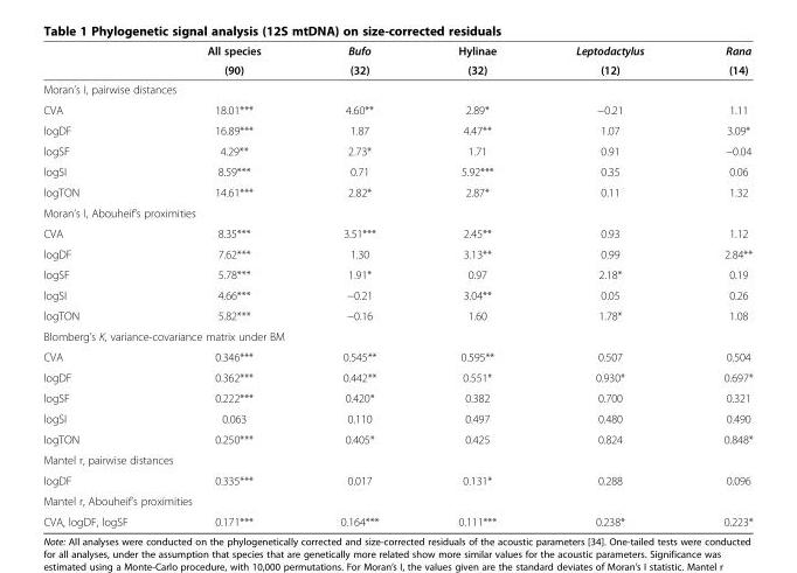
<table><thead><tr><td rowspan="2"></td><td rowspan="2">All species (90)</td><td rowspan="2">Bufo (32)</td><td rowspan="2">Hylinae (32)</td><td rowspan="2">Leptodactylus (12)</td><td rowspan="2">Rana (14)</td></tr><tr></tr></thead><tbody><tr><td colspan="6">Moran’s I, pairwise distances</td></tr><tr><td>CVA</td><td>18.01***</td><td>4.60**</td><td>2.89*</td><td>−0.21</td><td>1.11</td></tr><tr><td>logDF</td><td>16.89***</td><td>1.87</td><td>4.47**</td><td>1.07</td><td>3.09*</td></tr><tr><td>logSF</td><td>4.29**</td><td>2.73*</td><td>1.71</td><td>0.91</td><td>−0.04</td></tr><tr><td>logSI</td><td>8.59***</td><td>0.71</td><td>5.92***</td><td>0.35</td><td>0.06</td></tr><tr><td>logTON</td><td>14.61***</td><td>2.82*</td><td>2.87*</td><td>0.11</td><td>1.32</td></tr><tr><td colspan="6">Moran’s I, Abouheif’s proximities</td></tr><tr><td>CVA</td><td>8.35***</td><td>3.51***</td><td>2.45**</td><td>0.93</td><td>1.12</td></tr><tr><td>logDF</td><td>7.62***</td><td>1.30</td><td>3.13**</td><td>0.99</td><td>2.84**</td></tr><tr><td>logSF</td><td>5.78***</td><td>1.91*</td><td>0.97</td><td>2.18*</td><td>0.19</td></tr><tr><td>logSI</td><td>4.66***</td><td>−0.21</td><td>3.04**</td><td>0.05</td><td>0.26</td></tr><tr><td>logTON</td><td>5.82***</td><td>−0.16</td><td>1.60</td><td>1.78*</td><td>1.08</td></tr><tr><td colspan="6">Blomberg’s K, variance-covariance matrix under BM</td></tr><tr><td>CVA</td><td>0.346***</td><td>0.545**</td><td>0.595**</td><td>0.507</td><td>0.504</td></tr><tr><td>logDF</td><td>0.362***</td><td>0.442**</td><td>0.551*</td><td>0.930*</td><td>0.697*</td></tr><tr><td>logSF</td><td>0.222***</td><td>0.420*</td><td>0.382</td><td>0.700</td><td>0.321</td></tr><tr><td>logSI</td><td>0.063</td><td>0.110</td><td>0.497</td><td>0.480</td><td>0.490</td></tr><tr><td>logTON</td><td>0.250***</td><td>0.405*</td><td>0.425</td><td>0.824</td><td>0.848*</td></tr><tr><td colspan="6">Mantel r, pairwise distances</td></tr><tr><td>logDF</td><td>0.335***</td><td>0.017</td><td>0.131*</td><td>0.288</td><td>0.096</td></tr><tr><td colspan="6">Mantel r, Abouheif’s proximities</td></tr><tr><td>CVA, logDF, logSF</td><td>0.171***</td><td>0.164***</td><td>0.111***</td><td>0.238*</td><td>0.223*</td></tr></tbody></table>